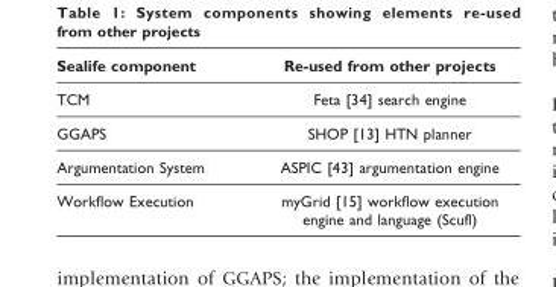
<table><thead><tr><td>Sealife component</td><td>Re-used from other projects</td></tr></thead><tbody><tr><td>TCM</td><td>Feta [34] search engine</td></tr><tr><td>GGAPS</td><td>SHOP [13] HTN planner</td></tr><tr><td>Argumentation System</td><td>ASPIC [43] argumentation engine</td></tr><tr><td>Workflow Execution</td><td>myGrid [15] workflow execution engine and language (Scufl)</td></tr></tbody></table>